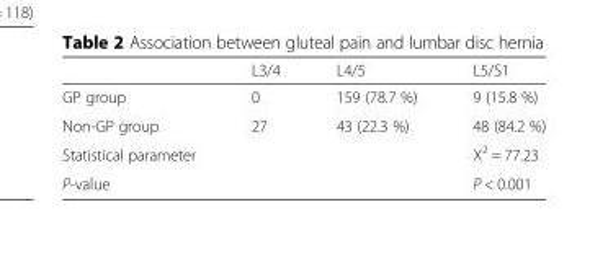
<table><thead><tr><td></td><td>L3/4</td><td>L4/5</td><td>L5/S1</td></tr></thead><tbody><tr><td>GP group</td><td>0</td><td>159 (78.7 %)</td><td>9 (15.8 %)</td></tr><tr><td>Non-GP group</td><td>27</td><td>43 (22.3 %)</td><td>48 (84.2 %)</td></tr><tr><td>Statistical parameter</td><td></td><td></td><td>X<sup>2</sup> = 77.23</td></tr><tr><td>P-value</td><td></td><td></td><td>P &lt; 0.001</td></tr></tbody></table>